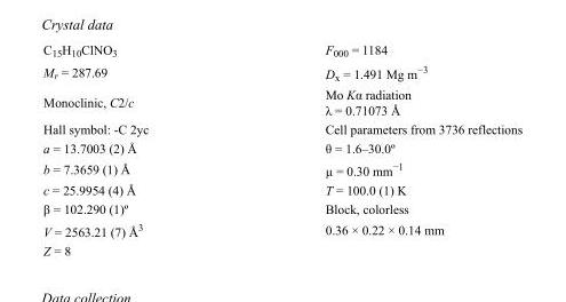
<table><tbody><tr><td>C<sub>15</sub>H<sub>10</sub>ClNO<sub>3</sub></td><td>F<sub>000</sub> = 1184</td></tr><tr><td>M<sub>r</sub> = 287.69</td><td>D<sub>x</sub> = 1.491 Mg m<sup>−3</sup></td></tr><tr><td>Monoclinic, C2/c</td><td>Mo Kα radiation λ = 0.71073 Å</td></tr><tr><td>Hall symbol: -C 2yc</td><td>Cell parameters from 3736 reflections</td></tr><tr><td>a = 13.7003 (2) Å</td><td>θ = 1.6–30.0º</td></tr><tr><td>b = 7.3659 (1) Å</td><td>µ = 0.30 mm<sup>−1</sup></td></tr><tr><td>c = 25.9954 (4) Å</td><td>T = 100.0 (1) K</td></tr><tr><td>β = 102.290 (1)º</td><td>Block, colorless</td></tr><tr><td>V = 2563.21 (7) Å<sup>3</sup></td><td>0.36 × 0.22 × 0.14 mm</td></tr><tr><td>Z = 8</td><td></td></tr></tbody></table>